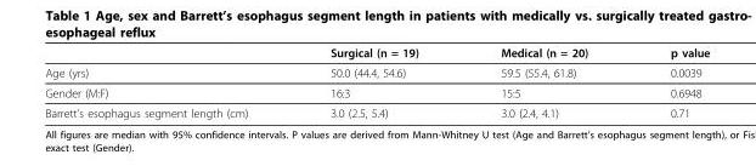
<table><thead><tr><td></td><td>Surgical (n = 19)</td><td>Medical (n = 20)</td><td>p value</td></tr></thead><tbody><tr><td>Age (yrs)</td><td>50.0 (44.4, 54.6)</td><td>59.5 (55.4, 61.8)</td><td>0.0039</td></tr><tr><td>Gender (M:F)</td><td>16:3</td><td>15:5</td><td>0.6948</td></tr><tr><td>Barrett’s esophagus segment length (cm)</td><td>3.0 (2.5, 5.4)</td><td>3.0 (2.4, 4.1)</td><td>0.71</td></tr></tbody></table>